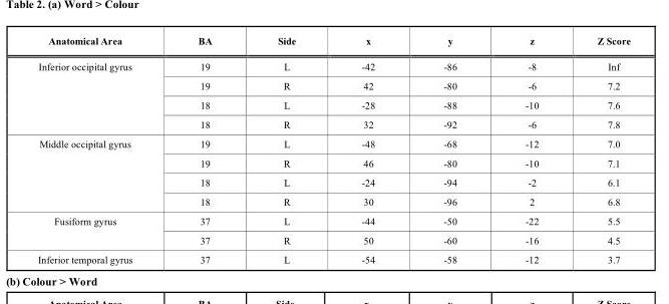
<table><thead><tr><td>Anatomical Area</td><td>BA</td><td>Side</td><td>x</td><td>y</td><td>z</td><td>Z Score</td></tr></thead><tbody><tr><td rowspan="4">Inferior occipital gyrus</td><td>19</td><td>L</td><td>-42</td><td>-86</td><td>-8</td><td>Inf</td></tr><tr><td>19</td><td>R</td><td>42</td><td>-80</td><td>-6</td><td>7.2</td></tr><tr><td>18</td><td>L</td><td>-28</td><td>-88</td><td>-10</td><td>7.6</td></tr><tr><td>18</td><td>R</td><td>32</td><td>-92</td><td>-6</td><td>7.8</td></tr><tr><td rowspan="4">Middle occipital gyrus</td><td>19</td><td>L</td><td>-48</td><td>-68</td><td>-12</td><td>7.0</td></tr><tr><td>19</td><td>R</td><td>46</td><td>-80</td><td>-10</td><td>7.1</td></tr><tr><td>18</td><td>L</td><td>-24</td><td>-94</td><td>-2</td><td>6.1</td></tr><tr><td>18</td><td>R</td><td>30</td><td>-96</td><td>2</td><td>6.8</td></tr><tr><td rowspan="2">Fusiform gyrus</td><td>37</td><td>L</td><td>-44</td><td>-50</td><td>-22</td><td>5.5</td></tr><tr><td>37</td><td>R</td><td>50</td><td>-60</td><td>-16</td><td>4.5</td></tr><tr><td>Inferior temporal gyrus</td><td>37</td><td>L</td><td>-54</td><td>-58</td><td>-12</td><td>3.7</td></tr></tbody></table>